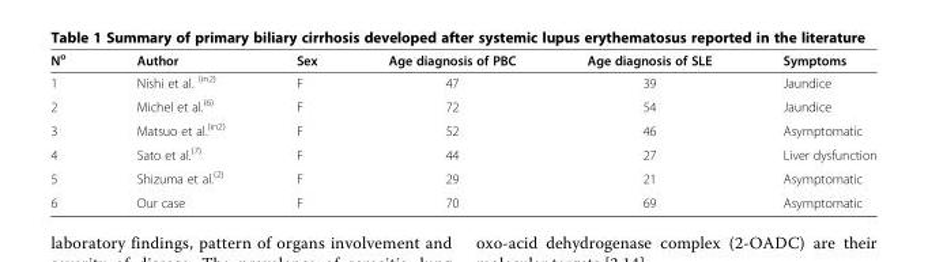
<table><thead><tr><td>N<sup>o</sup></td><td>Author</td><td>Sex</td><td>Age diagnosis of PBC</td><td>Age diagnosis of SLE</td><td>Symptoms</td></tr></thead><tbody><tr><td>1</td><td>Nishi et al. <sup>(in2)</sup></td><td>F</td><td>47</td><td>39</td><td>Jaundice</td></tr><tr><td>2</td><td>Michel et al.<sup>(6)</sup></td><td>F</td><td>72</td><td>54</td><td>Jaundice</td></tr><tr><td>3</td><td>Matsuo et al.<sup>(in2)</sup></td><td>F</td><td>52</td><td>46</td><td>Asymptomatic</td></tr><tr><td>4</td><td>Sato et al.<sup>(7)</sup></td><td>F</td><td>44</td><td>27</td><td>Liver dysfunction</td></tr><tr><td>5</td><td>Shizuma et al.<sup>(2)</sup></td><td>F</td><td>29</td><td>21</td><td>Asymptomatic</td></tr><tr><td>6</td><td>Our case</td><td>F</td><td>70</td><td>69</td><td>Asymptomatic</td></tr></tbody></table>